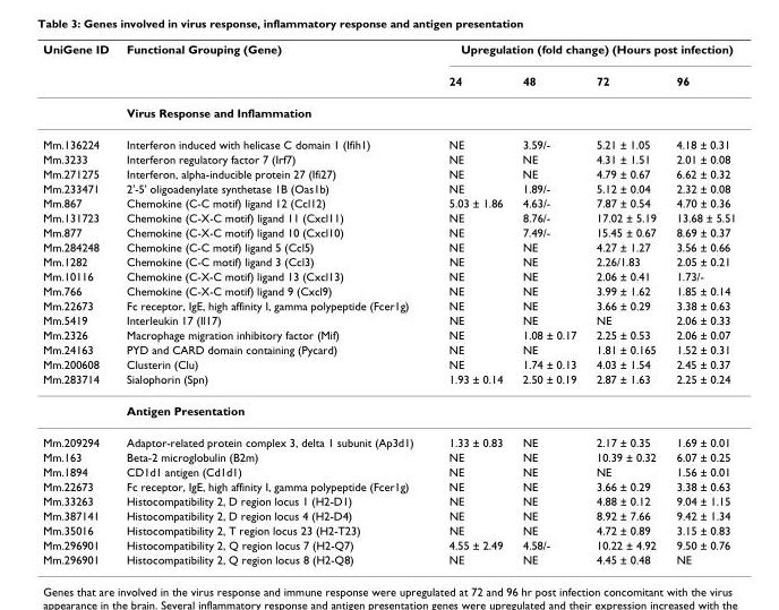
<table><thead><tr><td rowspan="2">UniGene ID</td><td rowspan="2">Functional Grouping (Gene)</td><td colspan="4">Upregulation (fold change) (Hours post infection)</td></tr><tr><td>24</td><td>48</td><td>72</td><td>96</td></tr></thead><tbody><tr><td></td><td>Virus Response and Inflammation</td><td></td><td></td><td></td><td></td></tr><tr><td>Mm.136224</td><td>Interferon induced with helicase C domain 1 (Ifih1)</td><td>NE</td><td>3.59/-</td><td>5.21 ± 1.05</td><td>4.18 ± 0.31</td></tr><tr><td>Mm.3233</td><td>Interferon regulatory factor 7 (Irf7)</td><td>NE</td><td>NE</td><td>4.31 ± 1.51</td><td>2.01 ± 0.08</td></tr><tr><td>Mm.271275</td><td>Interferon, alpha-inducible protein 27 (Ifi27)</td><td>NE</td><td>NE</td><td>4.79 ± 0.67</td><td>6.62 ± 0.32</td></tr><tr><td>Mm.233471</td><td>2&#x27;-5&#x27; oligoadenylate synthetase 1B (Oas1b)</td><td>NE</td><td>1.89/-</td><td>5.12 ± 0.04</td><td>2.32 ± 0.08</td></tr><tr><td>Mm.867</td><td>Chemokine (C-C motif) ligand 12 (Ccl12)</td><td>5.03 ± 1.86</td><td>4.63/-</td><td>7.87 ± 0.54</td><td>4.70 ± 0.36</td></tr><tr><td>Mm.131723</td><td>Chemokine (C-X-C motif) ligand 11 (Cxcl11)</td><td>NE</td><td>8.76/-</td><td>17.02 ± 5.19</td><td>13.68 ± 5.51</td></tr><tr><td>Mm.877</td><td>Chemokine (C-X-C motif) ligand 10 (Cxcl10)</td><td>NE</td><td>7.49/-</td><td>15.45 ± 0.67</td><td>8.69 ± 0.37</td></tr><tr><td>Mm.284248</td><td>Chemokine (C-C motif) ligand 5 (Ccl5)</td><td>NE</td><td>NE</td><td>4.27 ± 1.27</td><td>3.56 ± 0.66</td></tr><tr><td>Mm.1282</td><td>Chemokine (C-C motif) ligand 3 (Ccl3)</td><td>NE</td><td>NE</td><td>2.26/1.83</td><td>2.05 ± 0.21</td></tr><tr><td>Mm.10116</td><td>Chemokine (C-X-C motif) ligand 13 (Cxcl13)</td><td>NE</td><td>NE</td><td>2.06 ± 0.41</td><td>1.73/-</td></tr><tr><td>Mm.766</td><td>Chemokine (C-X-C motif) ligand 9 (Cxcl9)</td><td>NE</td><td>NE</td><td>3.99 ± 1.62</td><td>1.85 ± 0.14</td></tr><tr><td>Mm.22673</td><td>Fc receptor, IgE, high affinity I, gamma polypeptide (Fcer1g)</td><td>NE</td><td>NE</td><td>3.66 ± 0.29</td><td>3.38 ± 0.63</td></tr><tr><td>Mm.5419</td><td>Interleukin 17 (Il17)</td><td>NE</td><td>NE</td><td>NE</td><td>2.06 ± 0.33</td></tr><tr><td>Mm.2326</td><td>Macrophage migration inhibitory factor (Mif)</td><td>NE</td><td>1.08 ± 0.17</td><td>2.25 ± 0.53</td><td>2.06 ± 0.07</td></tr><tr><td>Mm.24163</td><td>PYD and CARD domain containing (Pycard)</td><td>NE</td><td>NE</td><td>1.81 ± 0.165</td><td>1.52 ± 0.31</td></tr><tr><td>Mm.200608</td><td>Clusterin (Clu)</td><td>NE</td><td>1.74 ± 0.13</td><td>4.03 ± 1.54</td><td>2.45 ± 0.37</td></tr><tr><td rowspan="2">Mm.283714</td><td>Sialophorin (Spn)</td><td>1.93 ± 0.14</td><td>2.50 ± 0.19</td><td>2.87 ± 1.63</td><td>2.25 ± 0.24</td></tr><tr><td>Antigen Presentation</td><td></td><td></td><td></td><td></td></tr><tr><td>Mm.209294</td><td>Adaptor-related protein complex 3, delta 1 subunit (Ap3d1)</td><td>1.33 ± 0.83</td><td>NE</td><td>2.17 ± 0.35</td><td>1.69 ± 0.01</td></tr><tr><td>Mm.163</td><td>Beta-2 microglobulin (B2m)</td><td>NE</td><td>NE</td><td>10.39 ± 0.32</td><td>6.07 ± 0.25</td></tr><tr><td>Mm.1894</td><td>CD1d1 antigen (Cd1d1)</td><td>NE</td><td>NE</td><td>NE</td><td>1.56 ± 0.01</td></tr><tr><td>Mm.22673</td><td>Fc receptor, IgE, high affinity I, gamma polypeptide (Fcer1g)</td><td>NE</td><td>NE</td><td>3.66 ± 0.29</td><td>3.38 ± 0.63</td></tr><tr><td>Mm.33263</td><td>Histocompatibility 2, D region locus 1 (H2-D1)</td><td>NE</td><td>NE</td><td>4.88 ± 0.12</td><td>9.04 ± 1.15</td></tr><tr><td>Mm.387141</td><td>Histocompatibility 2, D region locus 4 (H2-D4)</td><td>NE</td><td>NE</td><td>8.92 ± 7.66</td><td>9.42 ± 1.34</td></tr><tr><td>Mm.35016</td><td>Histocompatibility 2, T region locus 23 (H2-T23)</td><td>NE</td><td>NE</td><td>4.72 ± 0.89</td><td>3.15 ± 0.83</td></tr><tr><td>Mm.296901</td><td>Histocompatibility 2, Q region locus 7 (H2-Q7)</td><td>4.55 ± 2.49</td><td>4.58/-</td><td>10.22 ± 4.92</td><td>9.50 ± 0.76</td></tr><tr><td>Mm.296901</td><td>Histocompatibility 2, Q region locus 8 (H2-Q8)</td><td>NE</td><td>NE</td><td>4.45 ± 0.48</td><td>NE</td></tr></tbody></table>